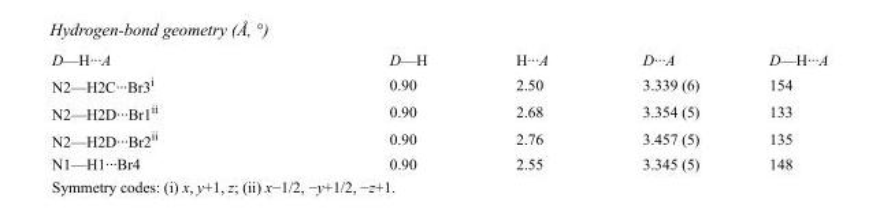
<table><tbody><tr><td>D—H···A</td><td>D—H</td><td>H···A</td><td>D···A</td><td>D—H···A</td></tr><tr><td>N2—H2C···Br3<sup>i</sup></td><td>0.90</td><td>2.50</td><td>3.339 (6)</td><td>154</td></tr><tr><td>N2—H2D···Br1<sup>ii</sup></td><td>0.90</td><td>2.68</td><td>3.354 (5)</td><td>133</td></tr><tr><td>N2—H2D···Br2<sup>ii</sup></td><td>0.90</td><td>2.76</td><td>3.457 (5)</td><td>135</td></tr><tr><td>N1—H1···Br4</td><td>0.90</td><td>2.55</td><td>3.345 (5)</td><td>148</td></tr></tbody></table>